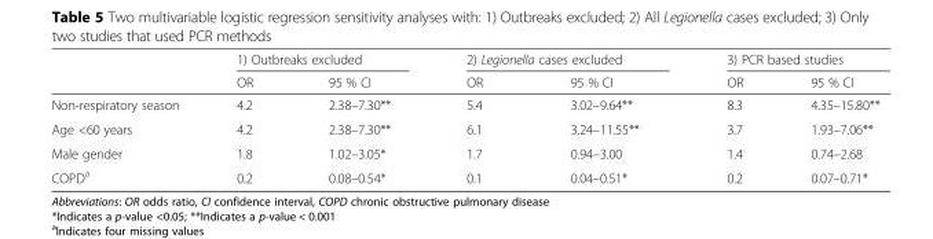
<table><thead><tr><td rowspan="2"></td><td colspan="2">1) Outbreaks excluded</td><td colspan="2">2) Legionella cases excluded</td><td colspan="2">3) PCR based studies</td></tr><tr><td>OR</td><td>95 % CI</td><td>OR</td><td>95 % CI</td><td>OR</td><td>95 % CI</td></tr></thead><tbody><tr><td>Non-respiratory season</td><td>4.2</td><td>2.38–7.30**</td><td>5.4</td><td>3.02–9.64**</td><td>8.3</td><td>4.35–15.80**</td></tr><tr><td>Age &lt;60 years</td><td>4.2</td><td>2.38–7.30**</td><td>6.1</td><td>3.24–11.55**</td><td>3.7</td><td>1.93–7.06**</td></tr><tr><td>Male gender</td><td>1.8</td><td>1.02–3.05*</td><td>1.7</td><td>0.94–3.00</td><td>1.4</td><td>0.74–2.68</td></tr><tr><td>COPD<sup>a</sup></td><td>0.2</td><td>0.08–0.54*</td><td>0.1</td><td>0.04–0.51*</td><td>0.2</td><td>0.07–0.71*</td></tr></tbody></table>